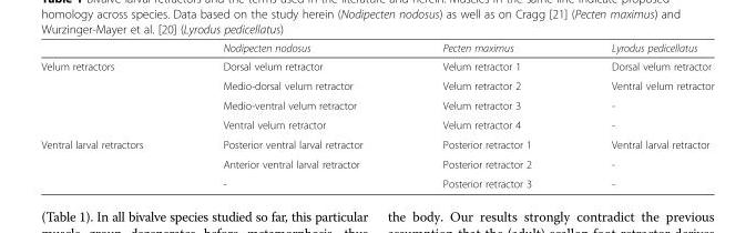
<table><thead><tr><td></td><td>Nodipecten nodosus</td><td>Pecten maximus</td><td>Lyrodus pedicellatus</td></tr></thead><tbody><tr><td rowspan="4">Velum retractors</td><td>Dorsal velum retractor</td><td>Velum retractor 1</td><td>Dorsal velum retractor</td></tr><tr><td>Medio-dorsal velum retractor</td><td>Velum retractor 2</td><td>Ventral velum retractor</td></tr><tr><td>Medio-ventral velum retractor</td><td>Velum retractor 3</td><td>-</td></tr><tr><td>Ventral velum retractor</td><td>Velum retractor 4</td><td>-</td></tr><tr><td rowspan="3">Ventral larval retractors</td><td>Posterior ventral larval retractor</td><td>Posterior retractor 1</td><td>Ventral larval retractor</td></tr><tr><td>Anterior ventral larval retractor</td><td>Posterior retractor 2</td><td>-</td></tr><tr><td>-</td><td>Posterior retractor 3</td><td>-</td></tr></tbody></table>